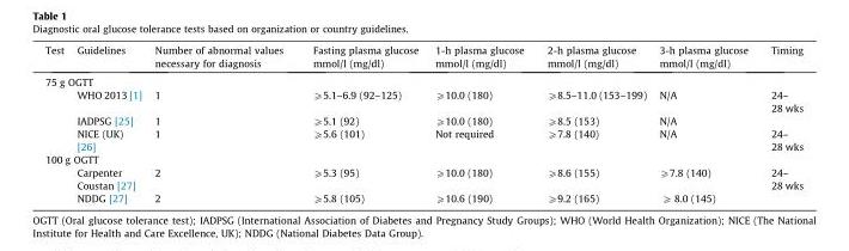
<table><thead><tr><td>Test</td><td>Guidelines</td><td>Number of abnormal values necessary for diagnosis</td><td>Fasting plasma glucose mmol/l (mg/dl)</td><td>1-h plasma glucose mmol/l (mg/dl)</td><td>2-h plasma glucose mmol/l (mg/dl)</td><td>3-h plasma glucose mmol/l (mg/dl)</td><td>Timing</td></tr></thead><tbody><tr><td colspan="8">75 g OGTT</td></tr><tr><td></td><td>WHO 2013 [1]</td><td>1</td><td>⩾5.1–6.9 (92–125)</td><td>⩾10.0 (180)</td><td>⩾8.5–11.0 (153–199)</td><td>N/A</td><td>24– 28 wks</td></tr><tr><td></td><td>IADPSG [25]</td><td>1</td><td>⩾5.1 (92)</td><td>⩾10.0 (180)</td><td>⩾8.5 (153)</td><td>N/A</td><td></td></tr><tr><td></td><td>NICE (UK) [26]</td><td>1</td><td>⩾5.6 (101)</td><td>Not required</td><td>⩾7.8 (140)</td><td>N/A</td><td>24– 28 wks</td></tr><tr><td colspan="8">100 g OGTT</td></tr><tr><td></td><td>Carpenter Coustan [27]</td><td>2</td><td>⩾5.3 (95)</td><td>⩾10.0 (180)</td><td>⩾8.6 (155)</td><td>⩾7.8 (140)</td><td>24– 28 wks</td></tr><tr><td></td><td>NDDG [27]</td><td>2</td><td>⩾5.8 (105)</td><td>⩾10.6 (190)</td><td>⩾9.2 (165)</td><td>⩾ 8.0 (145)</td><td></td></tr></tbody></table>